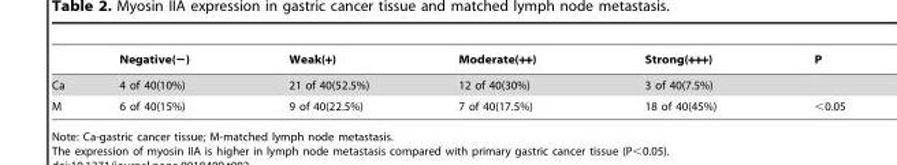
<table><thead><tr><td></td><td>Negative(−)</td><td>Weak(+)</td><td>Moderate(++)</td><td>Strong(+++)</td><td>P</td></tr></thead><tbody><tr><td>Ca</td><td>4 of 40(10%)</td><td>21 of 40(52.5%)</td><td>12 of 40(30%)</td><td>3 of 40(7.5%)</td><td></td></tr><tr><td>M</td><td>6 of 40(15%)</td><td>9 of 40(22.5%)</td><td>7 of 40(17.5%)</td><td>18 of 40(45%)</td><td>&lt;0.05</td></tr></tbody></table>